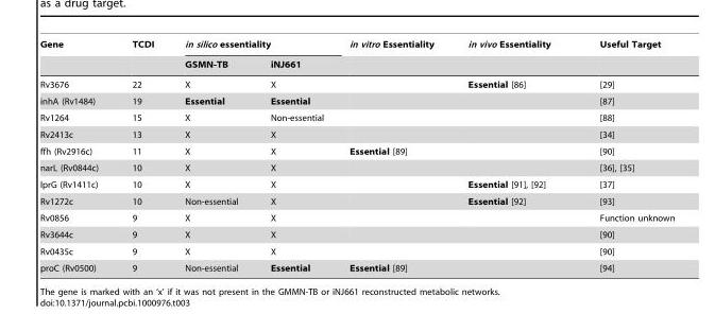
<table><thead><tr><td rowspan="2">Gene</td><td rowspan="2">TCDI</td><td colspan="2">in silico essentiality</td><td rowspan="2">in vitro Essentiality</td><td rowspan="2">in vivo Essentiality</td><td rowspan="2">Useful Target</td></tr><tr><td>GSMN-TB</td><td>iNJ661</td></tr></thead><tbody><tr><td>Rv3676</td><td>22</td><td>X</td><td>X</td><td></td><td>Essential [86]</td><td>[29]</td></tr><tr><td>inhA (Rv1484)</td><td>19</td><td>Essential</td><td>Essential</td><td></td><td></td><td>[87]</td></tr><tr><td>Rv1264</td><td>15</td><td>X</td><td>Non-essential</td><td></td><td></td><td>[88]</td></tr><tr><td>Rv2413c</td><td>13</td><td>X</td><td>X</td><td></td><td></td><td>[34]</td></tr><tr><td>ffh (Rv2916c)</td><td>11</td><td>X</td><td>X</td><td>Essential [89]</td><td></td><td>[90]</td></tr><tr><td>narL (Rv0844c)</td><td>10</td><td>X</td><td>X</td><td></td><td></td><td>[36], [35]</td></tr><tr><td>lprG (Rv1411c)</td><td>10</td><td>X</td><td>X</td><td></td><td>Essential [91], [92]</td><td>[37]</td></tr><tr><td>Rv1272c</td><td>10</td><td>Non-essential</td><td>X</td><td></td><td>Essential [92]</td><td>[93]</td></tr><tr><td>Rv0856</td><td>9</td><td>X</td><td>X</td><td></td><td></td><td>Function unknown</td></tr><tr><td>Rv3644c</td><td>9</td><td>X</td><td>X</td><td></td><td></td><td>[90]</td></tr><tr><td>Rv0435c</td><td>9</td><td>X</td><td>X</td><td></td><td></td><td>[90]</td></tr><tr><td>proC (Rv0500)</td><td>9</td><td>Non-essential</td><td>Essential</td><td>Essential [89]</td><td></td><td>[94]</td></tr></tbody></table>